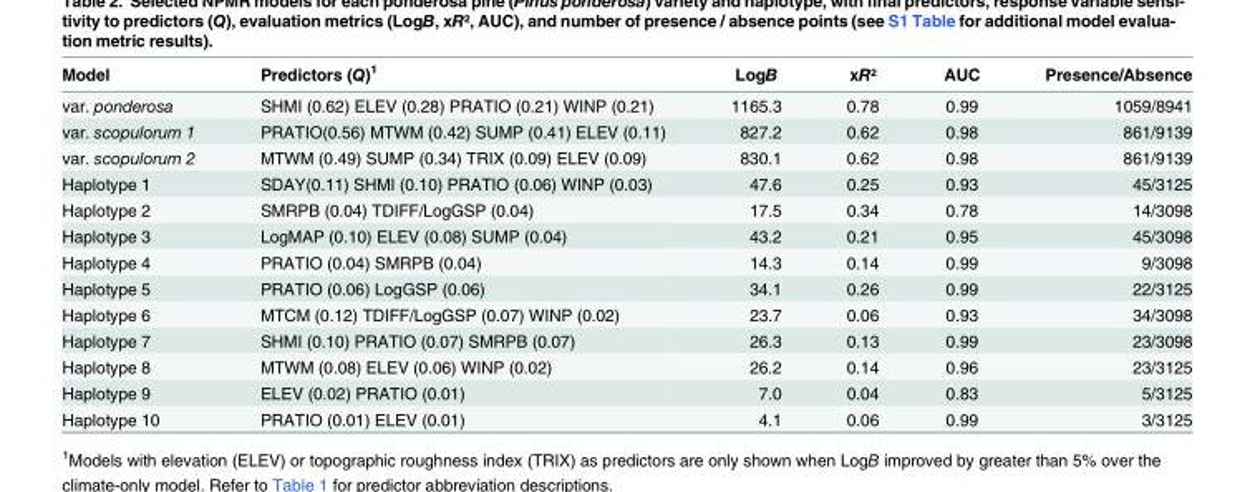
<table><thead><tr><td>Model</td><td>Predictors (Q)<sup>1</sup></td><td>LogB</td><td>xR²</td><td>AUC</td><td>Presence/Absence</td></tr></thead><tbody><tr><td>var. ponderosa</td><td>SHMI (0.62) ELEV (0.28) PRATIO (0.21) WINP (0.21)</td><td>1165.3</td><td>0.78</td><td>0.99</td><td>1059/8941</td></tr><tr><td>var. scopulorum 1</td><td>PRATIO(0.56) MTWM (0.42) SUMP (0.41) ELEV (0.11)</td><td>827.2</td><td>0.62</td><td>0.98</td><td>861/9139</td></tr><tr><td>var. scopulorum 2</td><td>MTWM (0.49) SUMP (0.34) TRIX (0.09) ELEV (0.09)</td><td>830.1</td><td>0.62</td><td>0.98</td><td>861/9139</td></tr><tr><td>Haplotype 1</td><td>SDAY(0.11) SHMI (0.10) PRATIO (0.06) WINP (0.03)</td><td>47.6</td><td>0.25</td><td>0.93</td><td>45/3125</td></tr><tr><td>Haplotype 2</td><td>SMRPB (0.04) TDIFF/LogGSP (0.04)</td><td>17.5</td><td>0.34</td><td>0.78</td><td>14/3098</td></tr><tr><td>Haplotype 3</td><td>LogMAP (0.10) ELEV (0.08) SUMP (0.04)</td><td>43.2</td><td>0.21</td><td>0.95</td><td>45/3098</td></tr><tr><td>Haplotype 4</td><td>PRATIO (0.04) SMRPB (0.04)</td><td>14.3</td><td>0.14</td><td>0.99</td><td>9/3098</td></tr><tr><td>Haplotype 5</td><td>PRATIO (0.06) LogGSP (0.06)</td><td>34.1</td><td>0.26</td><td>0.99</td><td>22/3125</td></tr><tr><td>Haplotype 6</td><td>MTCM (0.12) TDIFF/LogGSP (0.07) WINP (0.02)</td><td>23.7</td><td>0.06</td><td>0.93</td><td>34/3098</td></tr><tr><td>Haplotype 7</td><td>SHMI (0.10) PRATIO (0.07) SMRPB (0.07)</td><td>26.3</td><td>0.13</td><td>0.99</td><td>23/3098</td></tr><tr><td>Haplotype 8</td><td>MTWM (0.08) ELEV (0.06) WINP (0.02)</td><td>26.2</td><td>0.14</td><td>0.96</td><td>23/3125</td></tr><tr><td>Haplotype 9</td><td>ELEV (0.02) PRATIO (0.01)</td><td>7.0</td><td>0.04</td><td>0.83</td><td>5/3125</td></tr><tr><td>Haplotype 10</td><td>PRATIO (0.01) ELEV (0.01)</td><td>4.1</td><td>0.06</td><td>0.99</td><td>3/3125</td></tr></tbody></table>